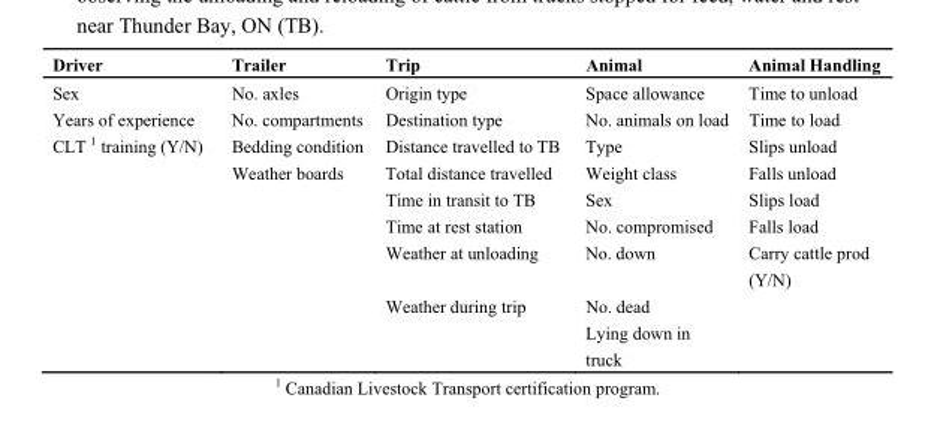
<table><thead><tr><td>Driver</td><td>Trailer</td><td>Trip</td><td>Animal</td><td>Animal Handling</td></tr></thead><tbody><tr><td>Sex</td><td>No. axles</td><td>Origin type</td><td>Space allowance</td><td>Time to unload</td></tr><tr><td>Years of experience</td><td>No. compartments</td><td>Destination type</td><td>No. animals on load</td><td>Time to load</td></tr><tr><td rowspan="7">CLT <sup>1</sup> training (Y/N)</td><td>Bedding condition</td><td>Distance travelled to TB</td><td>Type</td><td>Slips unload</td></tr><tr><td>Weather boards</td><td>Total distance travelled</td><td>Weight class</td><td>Falls unload</td></tr><tr><td></td><td>Time in transit to TB</td><td>Sex</td><td>Slips load</td></tr><tr><td></td><td>Time at rest station</td><td>No. compromised</td><td>Falls load</td></tr><tr><td></td><td>Weather at unloading</td><td>No. down</td><td>Carry cattle prod (Y/N)</td></tr><tr><td></td><td>Weather during trip</td><td>No. dead</td><td></td></tr><tr><td></td><td></td><td>Lying down in truck</td><td></td></tr></tbody></table>